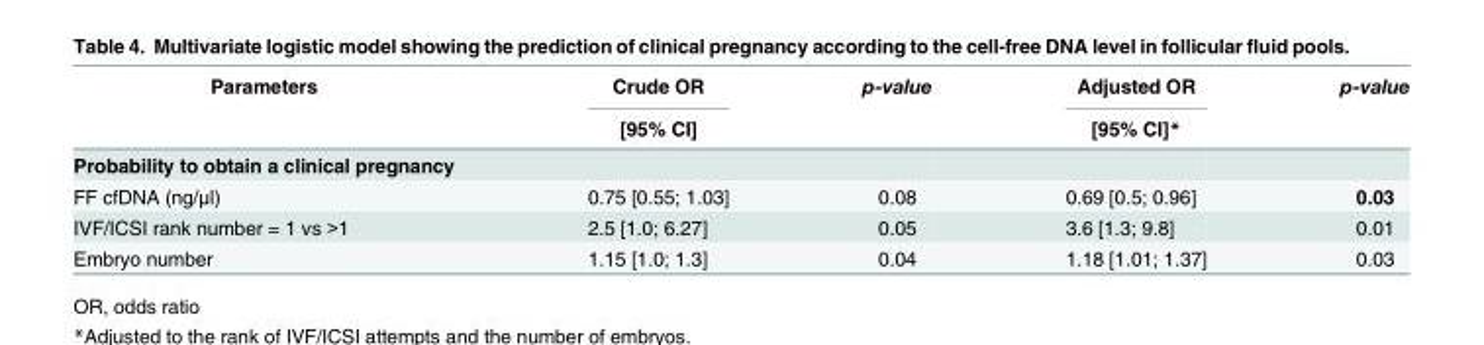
<table><thead><tr><td rowspan="2">Parameters</td><td rowspan="2">Crude OR [95% CI]</td><td rowspan="2">p-value</td><td rowspan="2">Adjusted OR [95% CI]*</td><td rowspan="2">p-value</td></tr><tr></tr></thead><tbody><tr><td colspan="5">Probability to obtain a clinical pregnancy</td></tr><tr><td>FF cfDNA (ng/μl)</td><td>0.75 [0.55; 1.03]</td><td>0.08</td><td>0.69 [0.5; 0.96]</td><td>0.03</td></tr><tr><td>IVF/ICSI rank number = 1 vs &gt;1</td><td>2.5 [1.0; 6.27]</td><td>0.05</td><td>3.6 [1.3; 9.8]</td><td>0.01</td></tr><tr><td>Embryo number</td><td>1.15 [1.0; 1.3]</td><td>0.04</td><td>1.18 [1.01; 1.37]</td><td>0.03</td></tr></tbody></table>